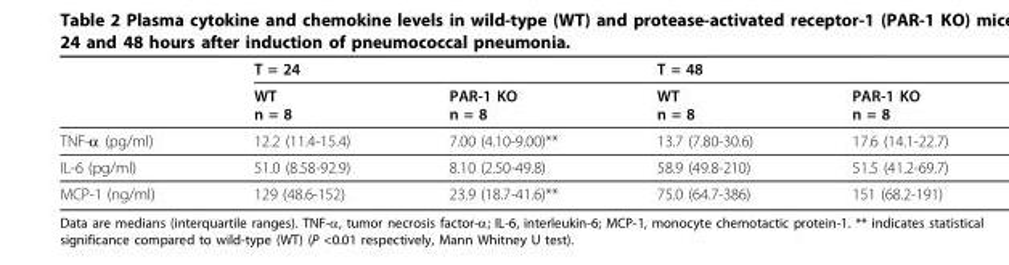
<table><thead><tr><td rowspan="2"></td><td colspan="2">T = 24</td><td colspan="2">T = 48</td></tr><tr><td>WT n = 8</td><td>PAR-1 KO n = 8</td><td>WT n = 8</td><td>PAR-1 KO n = 8</td></tr></thead><tbody><tr><td>TNF-α (pg/ml)</td><td>12.2 (11.4-15.4)</td><td>7.00 (4.10-9.00)**</td><td>13.7 (7.80-30.6)</td><td>17.6 (14.1-22.7)</td></tr><tr><td>IL-6 (pg/ml)</td><td>51.0 (8.58-92.9)</td><td>8.10 (2.50-49.8)</td><td>58.9 (49.8-210)</td><td>51.5 (41.2-69.7)</td></tr><tr><td>MCP-1 (ng/ml)</td><td>129 (48.6-152)</td><td>23.9 (18.7-41.6)**</td><td>75.0 (64.7-386)</td><td>151 (68.2-191)</td></tr></tbody></table>